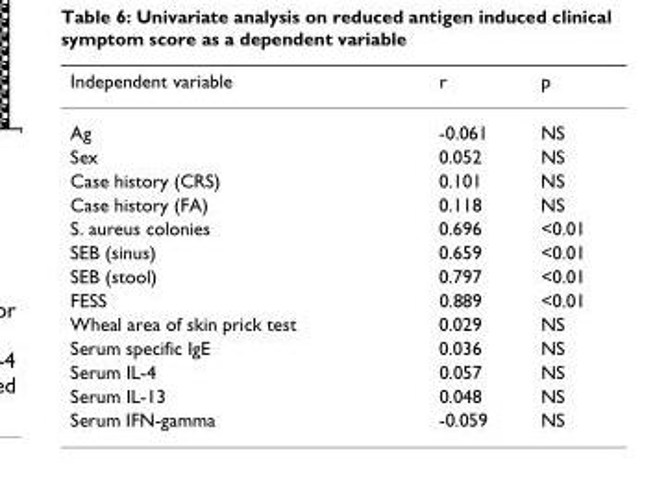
<table><thead><tr><td>Independent variable</td><td>r</td><td>p</td></tr></thead><tbody><tr><td>Ag</td><td>-0.061</td><td>NS</td></tr><tr><td>Sex</td><td>0.052</td><td>NS</td></tr><tr><td>Case history (CRS)</td><td>0.101</td><td>NS</td></tr><tr><td>Case history (FA)</td><td>0.118</td><td>NS</td></tr><tr><td>S. aureus colonies</td><td>0.696</td><td>&lt;0.01</td></tr><tr><td>SEB (sinus)</td><td>0.659</td><td>&lt;0.01</td></tr><tr><td>SEB (stool)</td><td>0.797</td><td>&lt;0.01</td></tr><tr><td>FESS</td><td>0.889</td><td>&lt;0.01</td></tr><tr><td>Wheal area of skin prick test</td><td>0.029</td><td>NS</td></tr><tr><td>Serum specific IgE</td><td>0.036</td><td>NS</td></tr><tr><td>Serum IL-4</td><td>0.057</td><td>NS</td></tr><tr><td>Serum IL-13</td><td>0.048</td><td>NS</td></tr><tr><td>Serum IFN-gamma</td><td>-0.059</td><td>NS</td></tr></tbody></table>